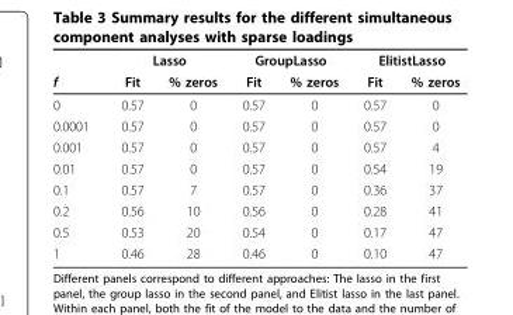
<table><thead><tr><td rowspan="2">f</td><td colspan="2">Lasso</td><td colspan="2">GroupLasso</td><td colspan="2">ElitistLasso</td></tr><tr><td>Fit</td><td>% zeros</td><td>Fit</td><td>% zeros</td><td>Fit</td><td>% zeros</td></tr></thead><tbody><tr><td>0</td><td>0.57</td><td>0</td><td>0.57</td><td>0</td><td>0.57</td><td>0</td></tr><tr><td>0.0001</td><td>0.57</td><td>0</td><td>0.57</td><td>0</td><td>0.57</td><td>0</td></tr><tr><td>0.001</td><td>0.57</td><td>0</td><td>0.57</td><td>0</td><td>0.57</td><td>4</td></tr><tr><td>0.01</td><td>0.57</td><td>0</td><td>0.57</td><td>0</td><td>0.54</td><td>19</td></tr><tr><td>0.1</td><td>0.57</td><td>7</td><td>0.57</td><td>0</td><td>0.36</td><td>37</td></tr><tr><td>0.2</td><td>0.56</td><td>10</td><td>0.56</td><td>0</td><td>0.28</td><td>41</td></tr><tr><td>0.5</td><td>0.53</td><td>20</td><td>0.54</td><td>0</td><td>0.17</td><td>47</td></tr><tr><td>1</td><td>0.46</td><td>28</td><td>0.46</td><td>0</td><td>0.10</td><td>47</td></tr></tbody></table>